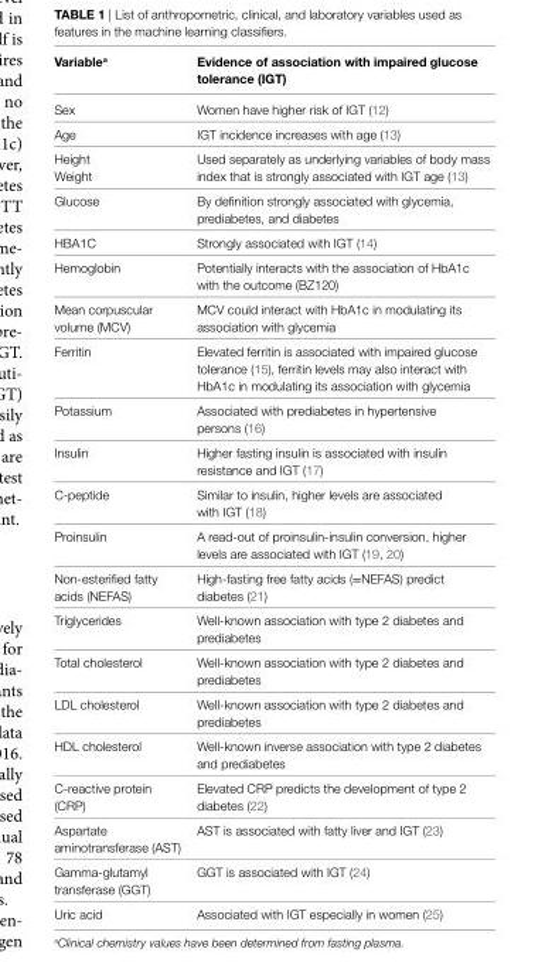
<table><thead><tr><td>Variable<sup>a</sup></td><td>evidence of association with impaired glucose tolerance (igT)</td></tr></thead><tbody><tr><td>Sex</td><td>Women have higher risk of IGT (12)</td></tr><tr><td>Age</td><td>IGT incidence increases with age (13)</td></tr><tr><td>Height</td><td rowspan="2">Used separately as underlying variables of body mass index that is strongly associated with IGT age (13)</td></tr><tr><td>Weight</td></tr><tr><td>Glucose</td><td>By definition strongly associated with glycemia, prediabetes, and diabetes</td></tr><tr><td>HBA1C</td><td>Strongly associated with IGT (14)</td></tr><tr><td>Hemoglobin</td><td>Potentially interacts with the association of HbA1c with the outcome (BZ120)</td></tr><tr><td>Mean corpuscular volume (MCV)</td><td>MCV could interact with HbA1c in modulating its association with glycemia</td></tr><tr><td>Ferritin</td><td>Elevated ferritin is associated with impaired glucose tolerance (15), ferritin levels may also interact with HbA1c in modulating its association with glycemia</td></tr><tr><td>Potassium</td><td>Associated with prediabetes in hypertensive persons (16)</td></tr><tr><td>Insulin</td><td>Higher fasting insulin is associated with insulin resistance and IGT (17)</td></tr><tr><td>C-peptide</td><td>Similar to insulin, higher levels are associated with IGT (18)</td></tr><tr><td>Proinsulin</td><td>A read-out of proinsulin-insulin conversion, higher levels are associated with IGT (19, 20)</td></tr><tr><td>Non-esterified fatty acids (NEFAS)</td><td>High-fasting free fatty acids (=NEFAS) predict diabetes (21)</td></tr><tr><td>Triglycerides</td><td>Well-known association with type 2 diabetes and prediabetes</td></tr><tr><td>Total cholesterol</td><td>Well-known association with type 2 diabetes and prediabetes</td></tr><tr><td>LDL cholesterol</td><td>Well-known association with type 2 diabetes and prediabetes</td></tr><tr><td>HDL cholesterol</td><td>Well-known inverse association with type 2 diabetes and prediabetes</td></tr><tr><td>C-reactive protein (CRP)</td><td>Elevated CRP predicts the development of type 2 diabetes (22)</td></tr><tr><td>Aspartate aminotransferase (AST)</td><td>AST is associated with fatty liver and IGT (23)</td></tr><tr><td>Gamma-glutamyl transferase (GGT)</td><td>GGT is associated with IGT (24)</td></tr><tr><td>Uric acid</td><td>Associated with IGT especially in women (25)</td></tr></tbody></table>